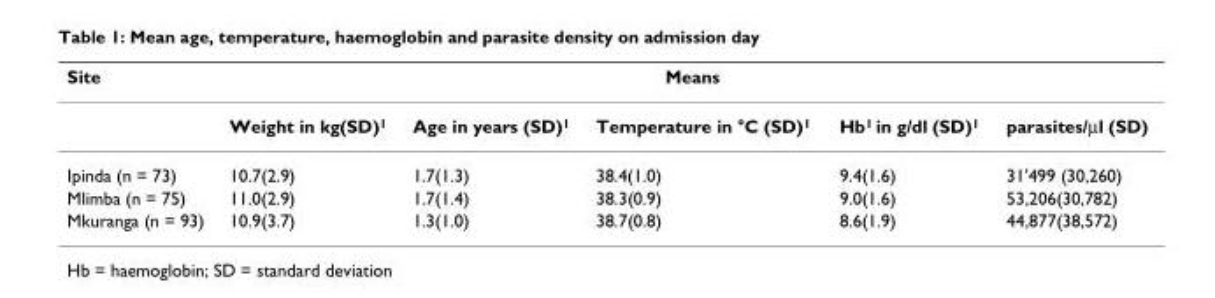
<table><thead><tr><td rowspan="2">Site</td><td colspan="5">Means</td></tr><tr><td>Weight in kg(SD)<sup>1</sup></td><td>Age in years (SD)<sup>1</sup></td><td>Temperature in °C (SD)<sup>1</sup></td><td>Hb<sup>1</sup> in g/dl (SD)<sup>1</sup></td><td>parasites/µl (SD)</td></tr></thead><tbody><tr><td>Ipinda (n = 73)</td><td>10.7(2.9)</td><td>1.7(1.3)</td><td>38.4(1.0)</td><td>9.4(1.6)</td><td>31&#x27;499 (30,260)</td></tr><tr><td>Mlimba (n = 75)</td><td>11.0(2.9)</td><td>1.7(1.4)</td><td>38.3(0.9)</td><td>9.0(1.6)</td><td>53,206(30,782)</td></tr><tr><td>Mkuranga (n = 93)</td><td>10.9(3.7)</td><td>1.3(1.0)</td><td>38.7(0.8)</td><td>8.6(1.9)</td><td>44,877(38,572)</td></tr></tbody></table>